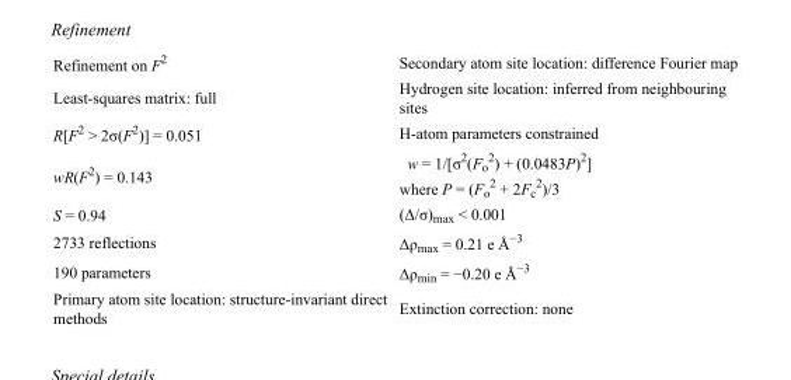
<table><tbody><tr><td>Refinement on F<sup>2</sup></td><td>Secondary atom site location: difference Fourier map</td></tr><tr><td>Least-squares matrix: full</td><td>Hydrogen site location: inferred from neighbouring sites</td></tr><tr><td>R[F<sup>2</sup> &gt; 2σ(F<sup>2</sup>)] = 0.051</td><td>H-atom parameters constrained</td></tr><tr><td>wR(F<sup>2</sup>) = 0.143</td><td>w = 1/[σ<sup>2</sup>(F<sub>o</sub> <sup>2</sup>) + (0.0483P)<sup>2</sup>] where P = (F<sub>o</sub> <sup>2</sup> + 2F<sub>c</sub> <sup>2</sup>)/3</td></tr><tr><td>S = 0.94</td><td>(Δ/σ)<sub>max</sub> &lt; 0.001</td></tr><tr><td>2733 reflections</td><td>Δρ<sub>max</sub> = 0.21 e Å<sup>−3</sup></td></tr><tr><td>190 parameters</td><td>Δρ<sub>min</sub> = −0.20 e Å<sup>−3</sup></td></tr><tr><td>Primary atom site location: structure-invariant direct methods</td><td>Extinction correction: none</td></tr></tbody></table>